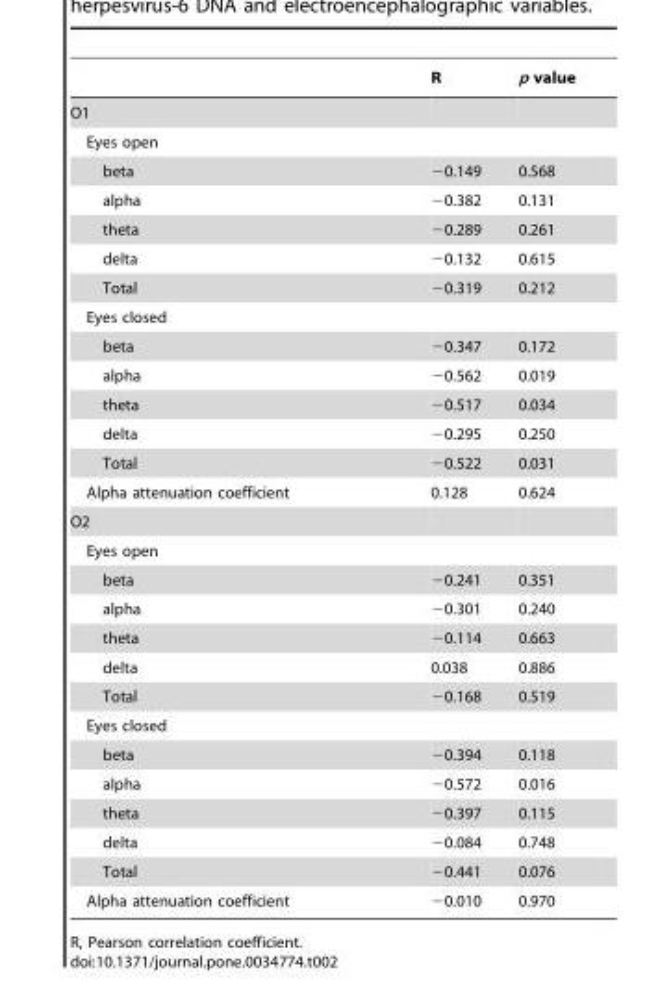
<table><thead><tr><td></td><td>R</td><td>p value</td></tr></thead><tbody><tr><td colspan="3">O1</td></tr><tr><td colspan="3">Eyes open</td></tr><tr><td>beta</td><td>−0.149</td><td>0.568</td></tr><tr><td>alpha</td><td>−0.382</td><td>0.131</td></tr><tr><td>theta</td><td>−0.289</td><td>0.261</td></tr><tr><td>delta</td><td>−0.132</td><td>0.615</td></tr><tr><td>Total</td><td>−0.319</td><td>0.212</td></tr><tr><td colspan="3">Eyes closed</td></tr><tr><td>beta</td><td>−0.347</td><td>0.172</td></tr><tr><td>alpha</td><td>−0.562</td><td>0.019</td></tr><tr><td>theta</td><td>−0.517</td><td>0.034</td></tr><tr><td>delta</td><td>−0.295</td><td>0.250</td></tr><tr><td>Total</td><td>−0.522</td><td>0.031</td></tr><tr><td>Alpha attenuation coefficient</td><td>0.128</td><td>0.624</td></tr><tr><td colspan="3">O2</td></tr><tr><td colspan="3">Eyes open</td></tr><tr><td>beta</td><td>−0.241</td><td>0.351</td></tr><tr><td>alpha</td><td>−0.301</td><td>0.240</td></tr><tr><td>theta</td><td>−0.114</td><td>0.663</td></tr><tr><td>delta</td><td>0.038</td><td>0.886</td></tr><tr><td>Total</td><td>−0.168</td><td>0.519</td></tr><tr><td colspan="3">Eyes closed</td></tr><tr><td>beta</td><td>−0.394</td><td>0.118</td></tr><tr><td>alpha</td><td>−0.572</td><td>0.016</td></tr><tr><td>theta</td><td>−0.397</td><td>0.115</td></tr><tr><td>delta</td><td>−0.084</td><td>0.748</td></tr><tr><td>Total</td><td>−0.441</td><td>0.076</td></tr><tr><td>Alpha attenuation coefficient</td><td>−0.010</td><td>0.970</td></tr></tbody></table>